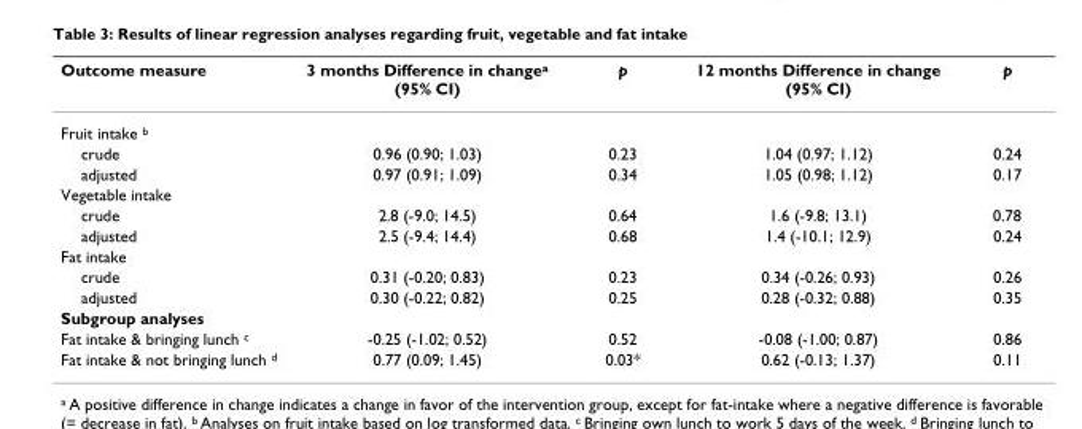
<table><thead><tr><td>Outcome measure</td><td>3 months Difference in changea (95% CI)</td><td>p</td><td>12 months Difference in change (95% CI)</td><td>p</td></tr></thead><tbody><tr><td colspan="5">Fruit intake b</td></tr><tr><td>crude</td><td>0.96 (0.90; 1.03)</td><td>0.23</td><td>1.04 (0.97; 1.12)</td><td>0.24</td></tr><tr><td>adjusted</td><td>0.97 (0.91; 1.09)</td><td>0.34</td><td>1.05 (0.98; 1.12)</td><td>0.17</td></tr><tr><td colspan="5">Vegetable intake</td></tr><tr><td>crude</td><td>2.8 (-9.0; 14.5)</td><td>0.64</td><td>1.6 (-9.8; 13.1)</td><td>0.78</td></tr><tr><td>adjusted</td><td>2.5 (-9.4; 14.4)</td><td>0.68</td><td>1.4 (-10.1; 12.9)</td><td>0.24</td></tr><tr><td colspan="5">Fat intake</td></tr><tr><td>crude</td><td>0.31 (-0.20; 0.83)</td><td>0.23</td><td>0.34 (-0.26; 0.93)</td><td>0.26</td></tr><tr><td>adjusted</td><td>0.30 (-0.22; 0.82)</td><td>0.25</td><td>0.28 (-0.32; 0.88)</td><td>0.35</td></tr><tr><td colspan="5">Subgroup analyses</td></tr><tr><td>Fat intake &amp; bringing lunch c</td><td>-0.25 (-1.02; 0.52)</td><td>0.52</td><td>-0.08 (-1.00; 0.87)</td><td>0.86</td></tr><tr><td>Fat intake &amp; not bringing lunch d</td><td>0.77 (0.09; 1.45)</td><td>0.03*</td><td>0.62 (-0.13; 1.37)</td><td>0.11</td></tr></tbody></table>